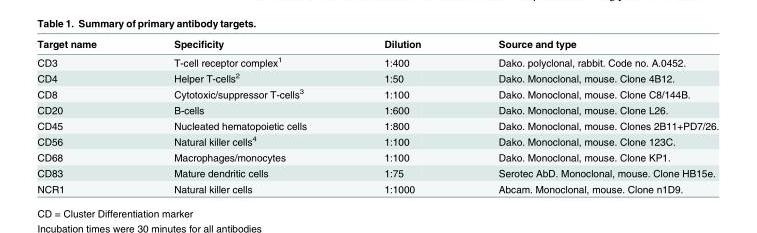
<table><thead><tr><td>Target name</td><td>Specificity</td><td>Dilution</td><td>Source and type</td></tr></thead><tbody><tr><td>CD3</td><td>T-cell receptor complex<sup>1</sup></td><td>1:400</td><td>Dako. polyclonal, rabbit. Code no. A.0452.</td></tr><tr><td>CD4</td><td>Helper T-cells<sup>2</sup></td><td>1:50</td><td>Dako. Monoclonal, mouse. Clone 4B12.</td></tr><tr><td>CD8</td><td>Cytotoxic/suppressor T-cells<sup>3</sup></td><td>1:100</td><td>Dako. Monoclonal, mouse. Clone C8/144B.</td></tr><tr><td>CD20</td><td>B-cells</td><td>1:600</td><td>Dako. Monoclonal, mouse. Clone L26.</td></tr><tr><td>CD45</td><td>Nucleated hematopoietic cells</td><td>1:800</td><td>Dako. Monoclonal, mouse. Clones 2B11+PD7/26.</td></tr><tr><td>CD56</td><td>Natural killer cells<sup>4</sup></td><td>1:100</td><td>Dako. Monoclonal, mouse. Clone 123C.</td></tr><tr><td>CD68</td><td>Macrophages/monocytes</td><td>1:100</td><td>Dako. Monoclonal, mouse. Clone KP1.</td></tr><tr><td>CD83</td><td>Mature dendritic cells</td><td>1:75</td><td>Serotec AbD. Monoclonal, mouse. Clone HB15e.</td></tr><tr><td>NCR1</td><td>Natural killer cells</td><td>1:1000</td><td>Abcam. Monoclonal, mouse. Clone n1D9.</td></tr></tbody></table>